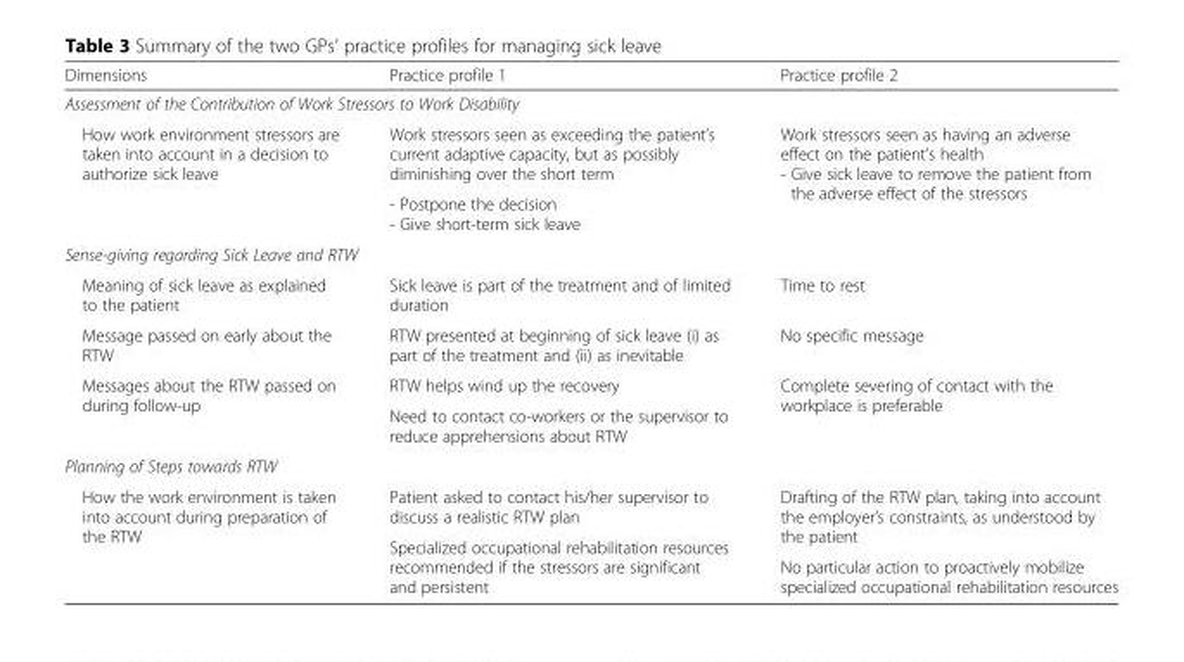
<table><thead><tr><td>Dimensions</td><td>Practice profile 1</td><td>Practice profile 2</td></tr></thead><tbody><tr><td colspan="3">Assessment of the Contribution of Work Stressors to Work Disability</td></tr><tr><td rowspan="2">How work environment stressors are taken into account in a decision to authorize sick leave</td><td>Work stressors seen as exceeding the patient’s current adaptive capacity, but as possibly diminishing over the short term</td><td rowspan="2">Work stressors seen as having an adverse effect on the patient’s health - Give sick leave to remove the patient from the adverse effect of the stressors</td></tr><tr><td>- Postpone the decision - Give short-term sick leave</td></tr><tr><td colspan="3">Sense-giving regarding Sick Leave and RTW</td></tr><tr><td>Meaning of sick leave as explained to the patient</td><td>Sick leave is part of the treatment and of limited duration</td><td>Time to rest</td></tr><tr><td>Message passed on early about the RTW</td><td>RTW presented at beginning of sick leave (i) as part of the treatment and (ii) as inevitable</td><td>No specific message</td></tr><tr><td rowspan="2">Messages about the RTW passed on during follow-up</td><td>RTW helps wind up the recovery</td><td rowspan="2">Complete severing of contact with the workplace is preferable</td></tr><tr><td>Need to contact co-workers or the supervisor to reduce apprehensions about RTW</td></tr><tr><td colspan="3">Planning of Steps towards RTW</td></tr><tr><td rowspan="3">How the work environment is taken into account during preparation of the RTW</td><td>Patient asked to contact his/her supervisor to discuss a realistic RTW plan</td><td rowspan="2">Drafting of the RTW plan, taking into account the employer’s constraints, as understood by the patient</td></tr><tr><td rowspan="2">Specialized occupational rehabilitation resources recommended if the stressors are significant and persistent</td></tr><tr><td>No particular action to proactively mobilize specialized occupational rehabilitation resources</td></tr></tbody></table>